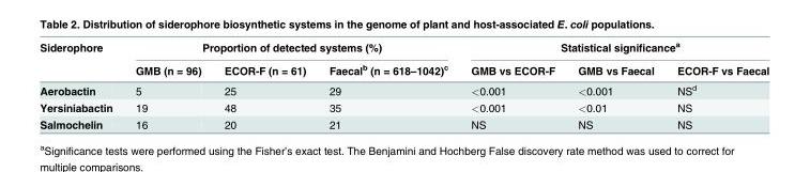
<table><thead><tr><td rowspan="2">Siderophore</td><td colspan="3">Proportion of detected systems (%)</td><td colspan="3">Statistical significance<sup>a</sup></td></tr><tr><td>GMB (n = 96)</td><td>ECOR-F (n = 61)</td><td>Faecal<sup>b</sup> (n = 618–1042)<sup>c</sup></td><td>GMB vs ECOR-F</td><td>GMB vs Faecal</td><td>ECOR-F vs Faecal</td></tr></thead><tbody><tr><td>Aerobactin</td><td>5</td><td>25</td><td>29</td><td>&lt;0.001</td><td>&lt;0.001</td><td>NS<sup>d</sup></td></tr><tr><td>Yersiniabactin</td><td>19</td><td>48</td><td>35</td><td>&lt;0.001</td><td>&lt;0.01</td><td>NS</td></tr><tr><td>Salmochelin</td><td>16</td><td>20</td><td>21</td><td>NS</td><td>NS</td><td>NS</td></tr></tbody></table>